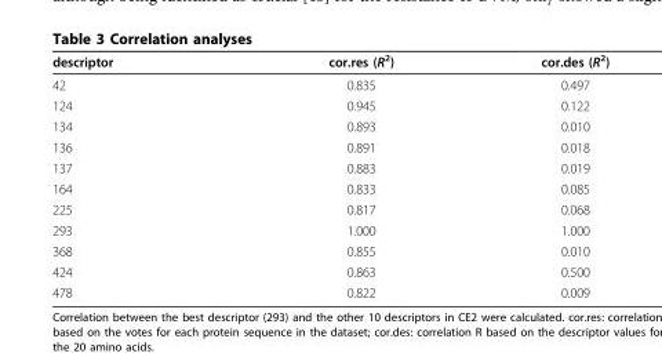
<table><thead><tr><td>descriptor</td><td>cor.res (R<sup>2</sup>)</td><td>cor.des (R<sup>2</sup>)</td></tr></thead><tbody><tr><td>42</td><td>0.835</td><td>0.497</td></tr><tr><td>124</td><td>0.945</td><td>0.122</td></tr><tr><td>134</td><td>0.893</td><td>0.010</td></tr><tr><td>136</td><td>0.891</td><td>0.018</td></tr><tr><td>137</td><td>0.883</td><td>0.019</td></tr><tr><td>164</td><td>0.833</td><td>0.085</td></tr><tr><td>225</td><td>0.817</td><td>0.068</td></tr><tr><td>293</td><td>1.000</td><td>1.000</td></tr><tr><td>368</td><td>0.855</td><td>0.010</td></tr><tr><td>424</td><td>0.863</td><td>0.500</td></tr><tr><td>478</td><td>0.822</td><td>0.009</td></tr></tbody></table>